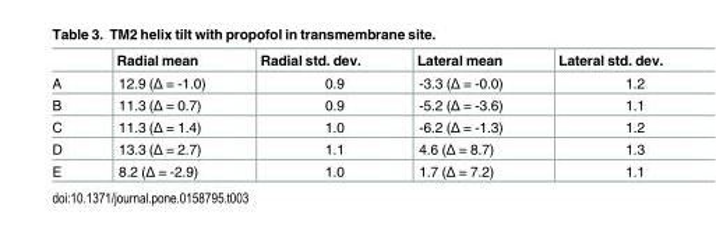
<table><thead><tr><td></td><td>Radial mean</td><td>Radial std. dev.</td><td>Lateral mean</td><td>Lateral std. dev.</td></tr></thead><tbody><tr><td>A</td><td>12.9 (Δ = -1.0)</td><td>0.9</td><td>-3.3 (Δ = -0.0)</td><td>1.2</td></tr><tr><td>B</td><td>11.3 (Δ = 0.7)</td><td>0.9</td><td>-5.2 (Δ = -3.6)</td><td>1.1</td></tr><tr><td>C</td><td>11.3 (Δ = 1.4)</td><td>1.0</td><td>-6.2 (Δ = -1.3)</td><td>1.2</td></tr><tr><td>D</td><td>13.3 (Δ = 2.7)</td><td>1.1</td><td>4.6 (Δ = 8.7)</td><td>1.3</td></tr><tr><td>E</td><td>8.2 (Δ = -2.9)</td><td>1.0</td><td>1.7 (Δ = 7.2)</td><td>1.1</td></tr></tbody></table>